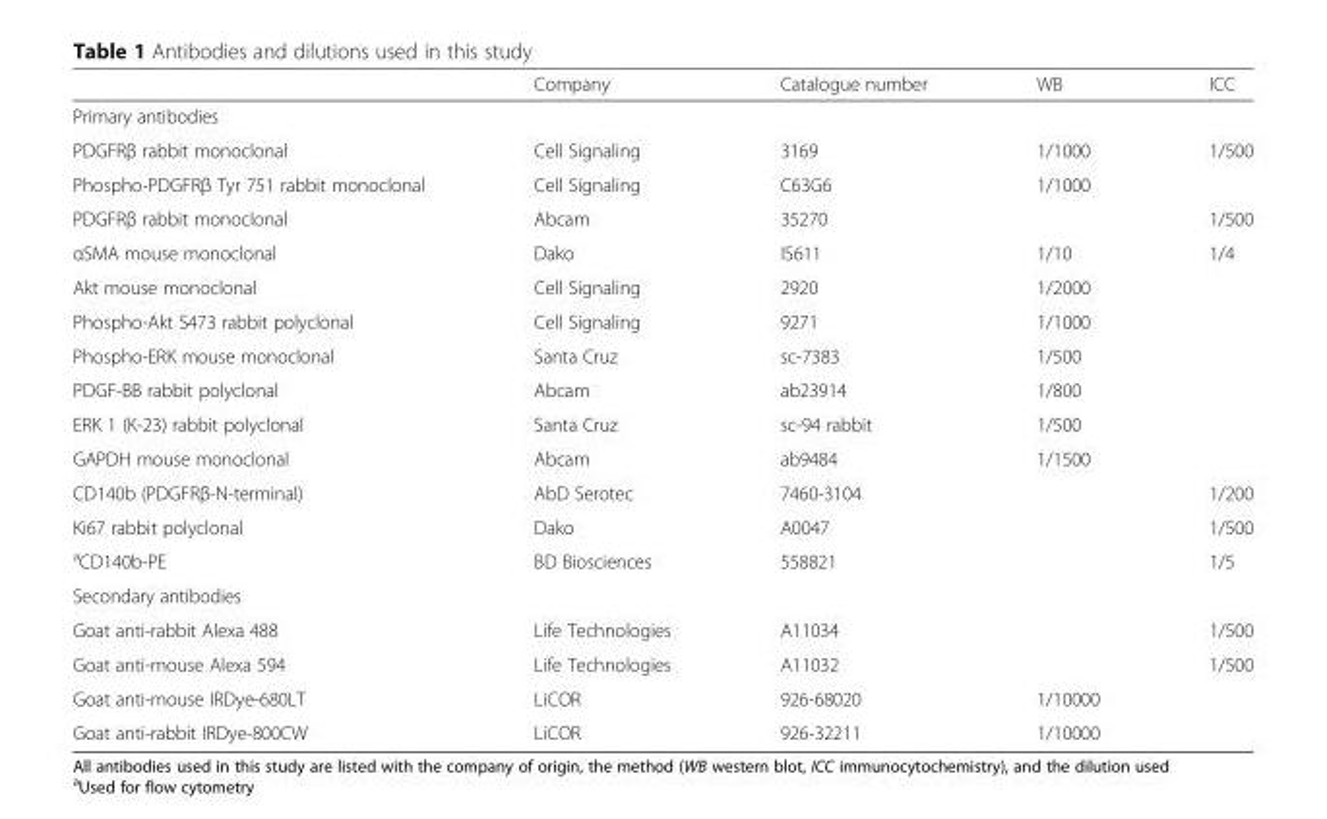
<table><thead><tr><td></td><td>Company</td><td>Catalogue number</td><td>WB</td><td>ICC</td></tr></thead><tbody><tr><td colspan="5">Primary antibodies</td></tr><tr><td>PDGFRβ rabbit monoclonal</td><td>Cell Signaling</td><td>3169</td><td>1/1000</td><td>1/500</td></tr><tr><td>Phospho-PDGFRβ Tyr 751 rabbit monoclonal</td><td>Cell Signaling</td><td>C63G6</td><td>1/1000</td><td></td></tr><tr><td>PDGFRβ rabbit monoclonal</td><td>Abcam</td><td>35270</td><td></td><td>1/500</td></tr><tr><td>αSMA mouse monoclonal</td><td>Dako</td><td>IS611</td><td>1/10</td><td>1/4</td></tr><tr><td>Akt mouse monoclonal</td><td>Cell Signaling</td><td>2920</td><td>1/2000</td><td></td></tr><tr><td>Phospho-Akt S473 rabbit polyclonal</td><td>Cell Signaling</td><td>9271</td><td>1/1000</td><td></td></tr><tr><td>Phospho-ERK mouse monoclonal</td><td>Santa Cruz</td><td>sc-7383</td><td>1/500</td><td></td></tr><tr><td>PDGF-BB rabbit polyclonal</td><td>Abcam</td><td>ab23914</td><td>1/800</td><td></td></tr><tr><td>ERK 1 (K-23) rabbit polyclonal</td><td>Santa Cruz</td><td>sc-94 rabbit</td><td>1/500</td><td></td></tr><tr><td>GAPDH mouse monoclonal</td><td>Abcam</td><td>ab9484</td><td>1/1500</td><td></td></tr><tr><td>CD140b (PDGFRβ-N-terminal)</td><td>AbD Serotec</td><td>7460-3104</td><td></td><td>1/200</td></tr><tr><td>Ki67 rabbit polyclonal</td><td>Dako</td><td>A0047</td><td></td><td>1/500</td></tr><tr><td><sup>a</sup>CD140b-PE</td><td>BD Biosciences</td><td>558821</td><td></td><td>1/5</td></tr><tr><td colspan="5">Secondary antibodies</td></tr><tr><td>Goat anti-rabbit Alexa 488</td><td>Life Technologies</td><td>A11034</td><td></td><td>1/500</td></tr><tr><td>Goat anti-mouse Alexa 594</td><td>Life Technologies</td><td>A11032</td><td></td><td>1/500</td></tr><tr><td>Goat anti-mouse IRDye-680LT</td><td>LiCOR</td><td>926-68020</td><td>1/10000</td><td></td></tr><tr><td>Goat anti-rabbit IRDye-800CW</td><td>LiCOR</td><td>926-32211</td><td>1/10000</td><td></td></tr></tbody></table>